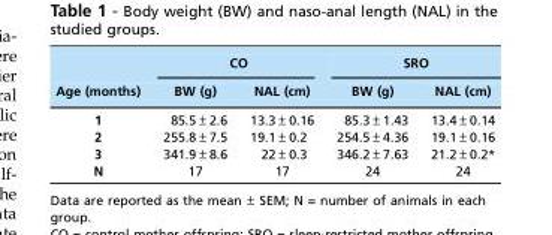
<table><thead><tr><td rowspan="2">Age (months)</td><td colspan="2">CO</td><td colspan="2">SRO</td></tr><tr><td>BW (g)</td><td>NAL (cm)</td><td>BW (g)</td><td>NAL (cm)</td></tr></thead><tbody><tr><td>1</td><td>85.5±2.6</td><td>13.3±0.16</td><td>85.3±1.43</td><td>13.4±0.14</td></tr><tr><td>2</td><td>255.8±7.5</td><td>19.1±0.2</td><td>254.5±4.36</td><td>19.1±0.16</td></tr><tr><td>3</td><td>341.9±8.6</td><td>22±0.3</td><td>346.2±7.63</td><td>21.2±0.2*</td></tr><tr><td>N</td><td>17</td><td>17</td><td>24</td><td>24</td></tr></tbody></table>